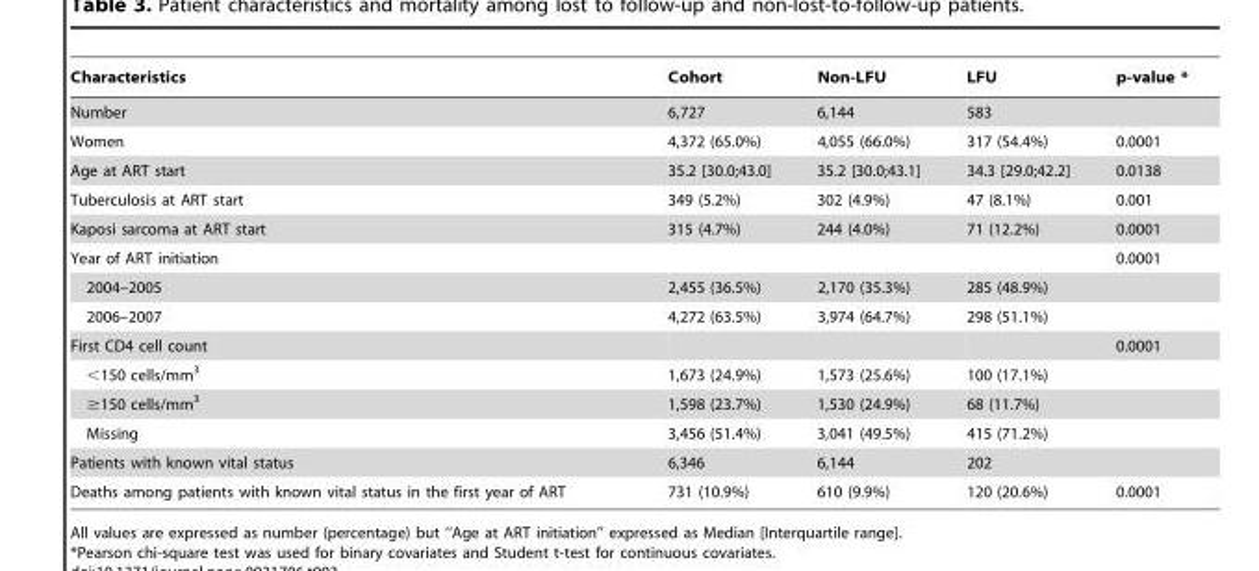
<table><thead><tr><td>Characteristics</td><td>Cohort</td><td>Non-LFU</td><td>LFU</td><td>p-value *</td></tr></thead><tbody><tr><td>Number</td><td>6,727</td><td>6,144</td><td>583</td><td></td></tr><tr><td>Women</td><td>4,372 (65.0%)</td><td>4,055 (66.0%)</td><td>317 (54.4%)</td><td>0.0001</td></tr><tr><td>Age at ART start</td><td>35.2 [30.0;43.0]</td><td>35.2 [30.0;43.1]</td><td>34.3 [29.0;42.2]</td><td>0.0138</td></tr><tr><td>Tuberculosis at ART start</td><td>349 (5.2%)</td><td>302 (4.9%)</td><td>47 (8.1%)</td><td>0.001</td></tr><tr><td>Kaposi sarcoma at ART start</td><td>315 (4.7%)</td><td>244 (4.0%)</td><td>71 (12.2%)</td><td>0.0001</td></tr><tr><td>Year of ART initiation</td><td></td><td></td><td></td><td>0.0001</td></tr><tr><td>2004–2005</td><td>2,455 (36.5%)</td><td>2,170 (35.3%)</td><td>285 (48.9%)</td><td></td></tr><tr><td>2006–2007</td><td>4,272 (63.5%)</td><td>3,974 (64.7%)</td><td>298 (51.1%)</td><td></td></tr><tr><td>First CD4 cell count</td><td></td><td></td><td></td><td>0.0001</td></tr><tr><td>&lt;150 cells/mm<sup>3</sup></td><td>1,673 (24.9%)</td><td>1,573 (25.6%)</td><td>100 (17.1%)</td><td></td></tr><tr><td>≥150 cells/mm<sup>3</sup></td><td>1,598 (23.7%)</td><td>1,530 (24.9%)</td><td>68 (11.7%)</td><td></td></tr><tr><td>Missing</td><td>3,456 (51.4%)</td><td>3,041 (49.5%)</td><td>415 (71.2%)</td><td></td></tr><tr><td>Patients with known vital status</td><td>6,346</td><td>6,144</td><td>202</td><td></td></tr><tr><td>Deaths among patients with known vital status in the first year of ART</td><td>731 (10.9%)</td><td>610 (9.9%)</td><td>120 (20.6%)</td><td>0.0001</td></tr></tbody></table>